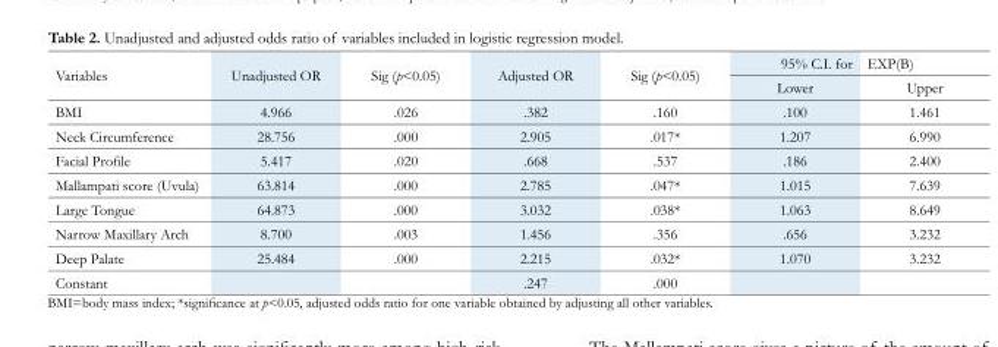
<table><thead><tr><td rowspan="2">Variables</td><td rowspan="2">Unadjusted OR</td><td rowspan="2">Sig (p&lt;0.05)</td><td rowspan="2">Adjusted OR</td><td rowspan="2">Sig (p&lt;0.05)</td><td rowspan="2">95% C.I. for Lower</td><td rowspan="2">EXP(B) Upper</td></tr><tr></tr></thead><tbody><tr><td>BMI</td><td>4.966</td><td>.026</td><td>.382</td><td>.160</td><td>.100</td><td>1.461</td></tr><tr><td>Neck Circumference</td><td>28.756</td><td>.000</td><td>2.905</td><td>.017*</td><td>1.207</td><td>6.990</td></tr><tr><td>Facial Profile</td><td>5.417</td><td>.020</td><td>.668</td><td>.537</td><td>.186</td><td>2.400</td></tr><tr><td>Mallampati score (Uvula)</td><td>63.814</td><td>.000</td><td>2.785</td><td>.047*</td><td>1.015</td><td>7.639</td></tr><tr><td>Large Tongue</td><td>64.873</td><td>.000</td><td>3.032</td><td>.038*</td><td>1.063</td><td>8.649</td></tr><tr><td>Narrow Maxillary Arch</td><td>8.700</td><td>.003</td><td>1.456</td><td>.356</td><td>.656</td><td>3.232</td></tr><tr><td>Deep Palate</td><td>25.484</td><td>.000</td><td>2.215</td><td>.032*</td><td>1.070</td><td>3.232</td></tr><tr><td>Constant</td><td></td><td></td><td>.247</td><td>.000</td><td></td><td></td></tr></tbody></table>